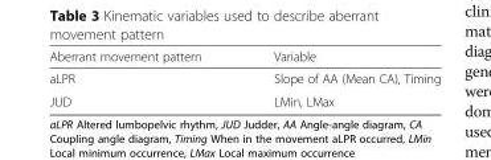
<table><thead><tr><td>Aberrant movement pattern</td><td>Variable</td></tr></thead><tbody><tr><td>aLPR</td><td>Slope of AA (Mean CA), Timing</td></tr><tr><td>JUD</td><td>LMin, LMax</td></tr></tbody></table>